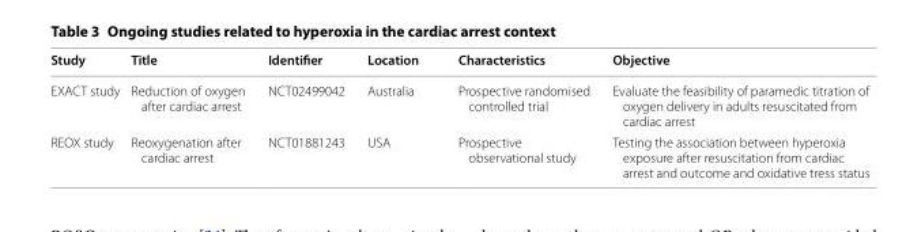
<table><thead><tr><td>Study</td><td>Title</td><td>Identifier</td><td>Location</td><td>Characteristics</td><td>Objective</td></tr></thead><tbody><tr><td>EXACT study</td><td>Reduction of oxygen after cardiac arrest</td><td>NCT02499042</td><td>Australia</td><td>Prospective randomised controlled trial</td><td>Evaluate the feasibility of paramedic titration of oxygen delivery in adults resuscitated from cardiac arrest</td></tr><tr><td>REOX study</td><td>Reoxygenation after cardiac arrest</td><td>NCT01881243</td><td>USA</td><td>Prospective observational study</td><td>Testing the association between hyperoxia exposure after resuscitation from cardiac arrest and outcome and oxidative tress status</td></tr></tbody></table>